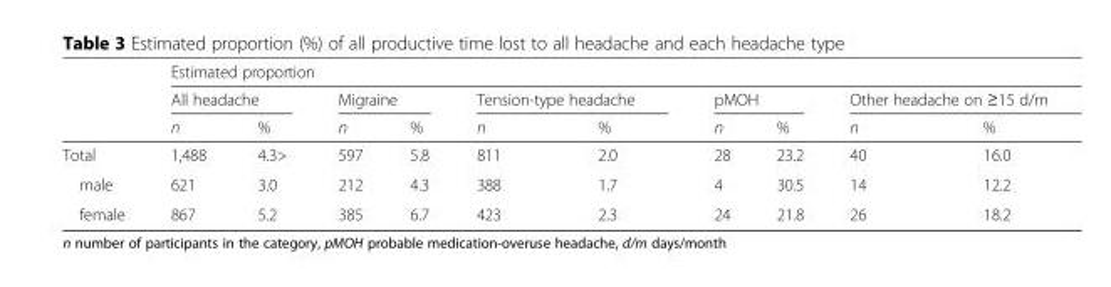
<table><thead><tr><td rowspan="3"></td><td colspan="10">Estimated proportion</td></tr><tr><td colspan="2">All headache</td><td colspan="2">Migraine</td><td colspan="2">Tension-type headache</td><td colspan="2">pMOH</td><td colspan="2">Other headache on ≥15 d/m</td></tr><tr><td>n</td><td>%</td><td>n</td><td>%</td><td>n</td><td>%</td><td>n</td><td>%</td><td>n</td><td>%</td></tr></thead><tbody><tr><td>Total</td><td>1,488</td><td>4.3&gt;</td><td>597</td><td>5.8</td><td>811</td><td>2.0</td><td>28</td><td>23.2</td><td>40</td><td>16.0</td></tr><tr><td>male</td><td>621</td><td>3.0</td><td>212</td><td>4.3</td><td>388</td><td>1.7</td><td>4</td><td>30.5</td><td>14</td><td>12.2</td></tr><tr><td>female</td><td>867</td><td>5.2</td><td>385</td><td>6.7</td><td>423</td><td>2.3</td><td>24</td><td>21.8</td><td>26</td><td>18.2</td></tr></tbody></table>